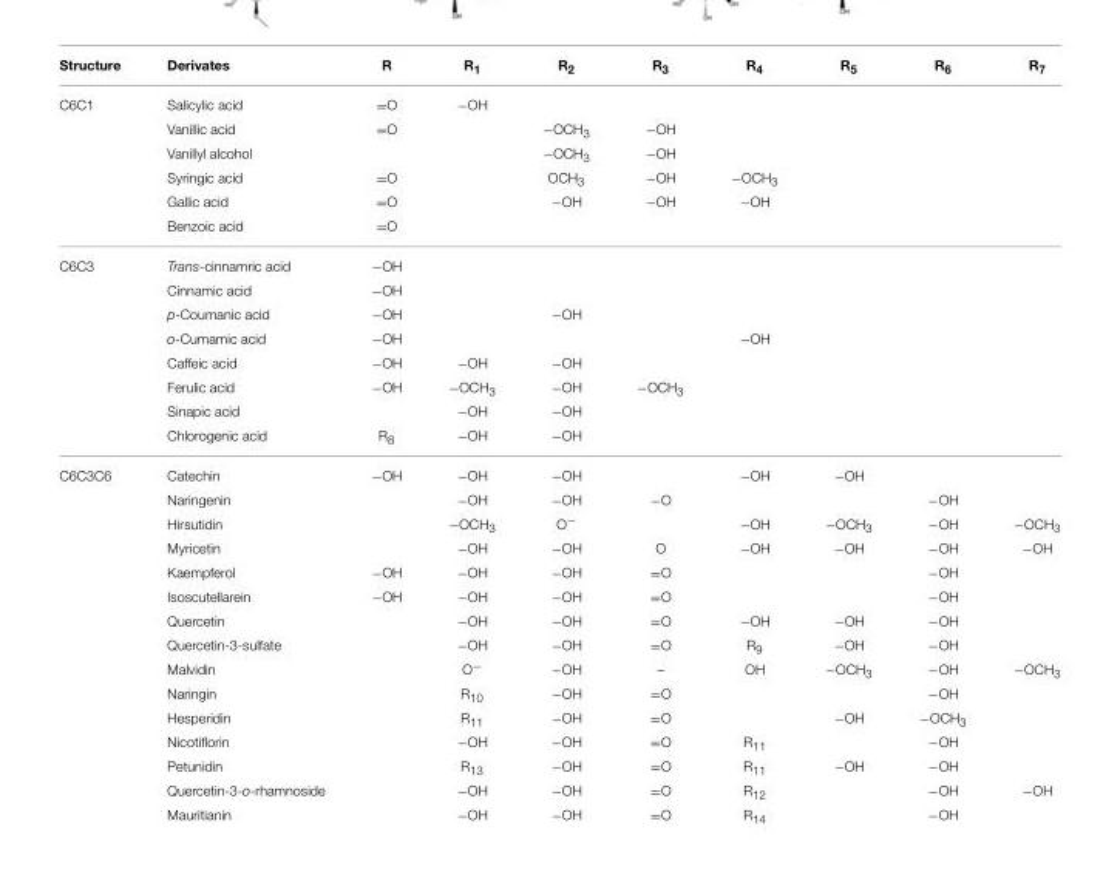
<table><tbody><tr><td>Structure</td><td>Derivates</td><td>R</td><td>R<sub>1</sub></td><td>R<sub>2</sub></td><td>R<sub>3</sub></td><td>R<sub>4</sub></td><td>R<sub>5</sub></td><td>R<sub>6</sub></td><td>R<sub>7</sub></td></tr><tr><td rowspan="6">C6C1</td><td>Salicylic acid</td><td>=O</td><td>−OH</td><td></td><td></td><td></td><td></td><td></td><td></td></tr><tr><td>Vanillic acid</td><td>=O</td><td></td><td>−OCH<sub>3</sub></td><td>−OH</td><td></td><td></td><td></td><td></td></tr><tr><td>Vanillyl alcohol</td><td></td><td></td><td>−OCH<sub>3</sub></td><td>−OH</td><td></td><td></td><td></td><td></td></tr><tr><td>Syringic acid</td><td>=O</td><td></td><td>OCH<sub>3</sub></td><td>−OH</td><td>−OCH<sub>3</sub></td><td></td><td></td><td></td></tr><tr><td>Gallic acid</td><td>=O</td><td></td><td>−OH</td><td>−OH</td><td>−OH</td><td></td><td></td><td></td></tr><tr><td>Benzoic acid</td><td>=O</td><td></td><td></td><td></td><td></td><td></td><td></td><td></td></tr><tr><td rowspan="8">C6C3</td><td>Trans-cinnamric acid</td><td>−OH</td><td></td><td></td><td></td><td></td><td></td><td></td><td></td></tr><tr><td>Cinnamic acid</td><td>−OH</td><td></td><td></td><td></td><td></td><td></td><td></td><td></td></tr><tr><td>p-Coumanic acid</td><td>−OH</td><td></td><td>−OH</td><td></td><td></td><td></td><td></td><td></td></tr><tr><td>o-Cumamic acid</td><td>−OH</td><td></td><td></td><td></td><td>−OH</td><td></td><td></td><td></td></tr><tr><td>Caffeic acid</td><td>−OH</td><td>−OH</td><td>−OH</td><td></td><td></td><td></td><td></td><td></td></tr><tr><td>Ferulic acid</td><td>−OH</td><td>−OCH<sub>3</sub></td><td>−OH</td><td>−OCH<sub>3</sub></td><td></td><td></td><td></td><td></td></tr><tr><td>Sinapic acid</td><td></td><td>−OH</td><td>−OH</td><td></td><td></td><td></td><td></td><td></td></tr><tr><td>Chlorogenic acid</td><td>R<sub>8</sub></td><td>−OH</td><td>−OH</td><td></td><td></td><td></td><td></td><td></td></tr><tr><td rowspan="15">C6C3C6</td><td>Catechin</td><td>−OH</td><td>−OH</td><td>−OH</td><td></td><td>−OH</td><td>−OH</td><td></td><td></td></tr><tr><td>Naringenin</td><td></td><td>−OH</td><td>−OH</td><td>−O</td><td></td><td></td><td>−OH</td><td></td></tr><tr><td>Hirsutidin</td><td></td><td>−OCH<sub>3</sub></td><td>O<sup>−</sup></td><td></td><td>−OH</td><td>−OCH<sub>3</sub></td><td>−OH</td><td>−OCH<sub>3</sub></td></tr><tr><td>Myricetin</td><td></td><td>−OH</td><td>−OH</td><td>O</td><td>−OH</td><td>−OH</td><td>−OH</td><td>−OH</td></tr><tr><td>Kaempferol</td><td>−OH</td><td>−OH</td><td>−OH</td><td>=O</td><td></td><td></td><td>−OH</td><td></td></tr><tr><td>Isoscutellarein</td><td>−OH</td><td>−OH</td><td>−OH</td><td>=O</td><td></td><td></td><td>−OH</td><td></td></tr><tr><td>Quercetin</td><td></td><td>−OH</td><td>−OH</td><td>=O</td><td>−OH</td><td>−OH</td><td>−OH</td><td></td></tr><tr><td>Quercetin-3-sulfate</td><td></td><td>−OH</td><td>−OH</td><td>=O</td><td>R<sub>9</sub></td><td>−OH</td><td>−OH</td><td></td></tr><tr><td>Malvidin</td><td></td><td>O<sup>−</sup></td><td>−OH</td><td>–</td><td>OH</td><td>−OCH<sub>3</sub></td><td>−OH</td><td>−OCH<sub>3</sub></td></tr><tr><td>Naringin</td><td></td><td>R<sub>10</sub></td><td>−OH</td><td>=O</td><td></td><td></td><td>−OH</td><td></td></tr><tr><td>Hesperidin</td><td></td><td>R<sub>11</sub></td><td>−OH</td><td>=O</td><td></td><td>−OH</td><td>−OCH<sub>3</sub></td><td></td></tr><tr><td>Nicotiflorin</td><td></td><td>−OH</td><td>−OH</td><td>=O</td><td>R<sub>11</sub></td><td></td><td>−OH</td><td></td></tr><tr><td>Petunidin</td><td></td><td>R<sub>13</sub></td><td>−OH</td><td>=O</td><td>R<sub>11</sub></td><td>−OH</td><td>−OH</td><td></td></tr><tr><td>Quercetin-3-o-rhamnoside</td><td></td><td>−OH</td><td>−OH</td><td>=O</td><td>R<sub>12</sub></td><td></td><td>−OH</td><td>−OH</td></tr><tr><td>Mauritianin</td><td></td><td>−OH</td><td>−OH</td><td>=O</td><td>R<sub>14</sub></td><td></td><td>−OH</td><td></td></tr></tbody></table>